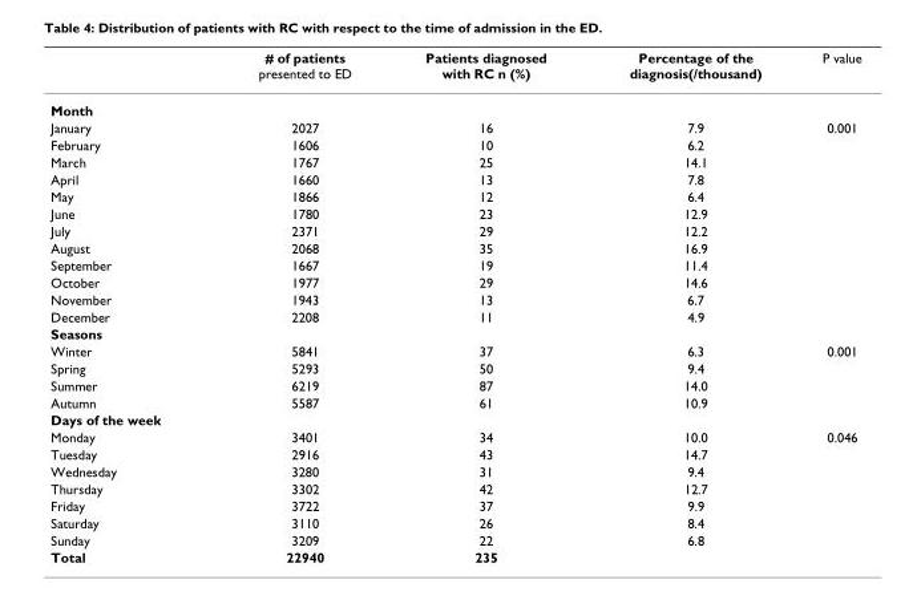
<table><thead><tr><td></td><td># of patients presented to ED</td><td>Patients diagnosed with RC n (%)</td><td>Percentage of the diagnosis(/thousand)</td><td>P value</td></tr></thead><tbody><tr><td colspan="5">Month</td></tr><tr><td>January</td><td>2027</td><td>16</td><td>7.9</td><td>0.001</td></tr><tr><td>February</td><td>1606</td><td>10</td><td>6.2</td><td></td></tr><tr><td>March</td><td>1767</td><td>25</td><td>14.1</td><td></td></tr><tr><td>April</td><td>1660</td><td>13</td><td>7.8</td><td></td></tr><tr><td>May</td><td>1866</td><td>12</td><td>6.4</td><td></td></tr><tr><td>June</td><td>1780</td><td>23</td><td>12.9</td><td></td></tr><tr><td>July</td><td>2371</td><td>29</td><td>12.2</td><td></td></tr><tr><td>August</td><td>2068</td><td>35</td><td>16.9</td><td></td></tr><tr><td>September</td><td>1667</td><td>19</td><td>11.4</td><td></td></tr><tr><td>October</td><td>1977</td><td>29</td><td>14.6</td><td></td></tr><tr><td>November</td><td>1943</td><td>13</td><td>6.7</td><td></td></tr><tr><td>December</td><td>2208</td><td>11</td><td>4.9</td><td></td></tr><tr><td colspan="5">Seasons</td></tr><tr><td>Winter</td><td>5841</td><td>37</td><td>6.3</td><td>0.001</td></tr><tr><td>Spring</td><td>5293</td><td>50</td><td>9.4</td><td></td></tr><tr><td>Summer</td><td>6219</td><td>87</td><td>14.0</td><td></td></tr><tr><td>Autumn</td><td>5587</td><td>61</td><td>10.9</td><td></td></tr><tr><td colspan="5">Days of the week</td></tr><tr><td>Monday</td><td>3401</td><td>34</td><td>10.0</td><td>0.046</td></tr><tr><td>Tuesday</td><td>2916</td><td>43</td><td>14.7</td><td></td></tr><tr><td>Wednesday</td><td>3280</td><td>31</td><td>9.4</td><td></td></tr><tr><td>Thursday</td><td>3302</td><td>42</td><td>12.7</td><td></td></tr><tr><td>Friday</td><td>3722</td><td>37</td><td>9.9</td><td></td></tr><tr><td>Saturday</td><td>3110</td><td>26</td><td>8.4</td><td></td></tr><tr><td>Sunday</td><td>3209</td><td>22</td><td>6.8</td><td></td></tr><tr><td>Total</td><td>22940</td><td>235</td><td></td><td></td></tr></tbody></table>